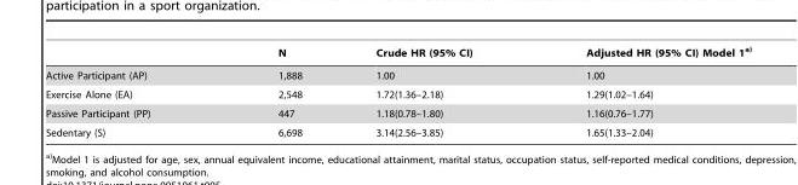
<table><thead><tr><td></td><td>N</td><td>Crude HR (95% CI)</td><td>Adjusted HR (95% CI) Model 1a)</td></tr></thead><tbody><tr><td>Active Participant (AP)</td><td>1,888</td><td>1.00</td><td>1.00</td></tr><tr><td>Exercise Alone (EA)</td><td>2,548</td><td>1.72(1.36–2.18)</td><td>1.29(1.02–1.64)</td></tr><tr><td>Passive Participant (PP)</td><td>447</td><td>1.18(0.78–1.80)</td><td>1.16(0.76–1.77)</td></tr><tr><td>Sedentary (S)</td><td>6,698</td><td>3.14(2.56–3.85)</td><td>1.65(1.33–2.04)</td></tr></tbody></table>